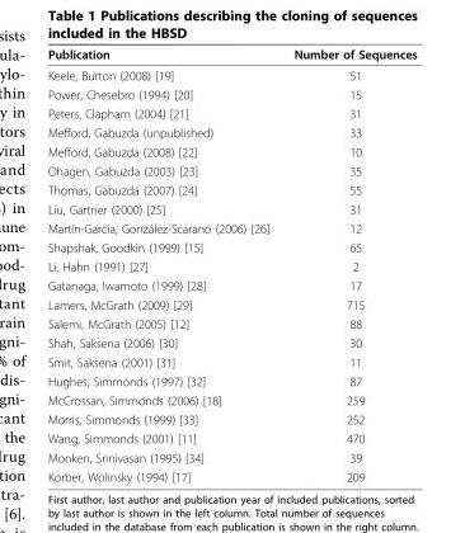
<table><thead><tr><td>Publication</td><td>Number of Sequences</td></tr></thead><tbody><tr><td>Keele, Burton (2008) [19]</td><td>51</td></tr><tr><td>Power, Chesebro (1994) [20]</td><td>15</td></tr><tr><td>Peters, Clapham (2004) [21]</td><td>31</td></tr><tr><td>Mefford, Gabuzda (unpublished)</td><td>33</td></tr><tr><td>Mefford, Gabuzda (2008) [22]</td><td>10</td></tr><tr><td>Ohagen, Gabuzda (2003) [23]</td><td>35</td></tr><tr><td>Thomas, Gabuzda (2007) [24]</td><td>55</td></tr><tr><td>Liu, Gartner (2000) [25]</td><td>31</td></tr><tr><td>Martín-García, González-Scarano (2006) [26]</td><td>12</td></tr><tr><td>Shapshak, Goodkin (1999) [15]</td><td>65</td></tr><tr><td>Li, Hahn (1991) [27]</td><td>2</td></tr><tr><td>Gatanaga, Iwamoto (1999) [28]</td><td>17</td></tr><tr><td>Lamers, McGrath (2009) [29]</td><td>715</td></tr><tr><td>Salemi, McGrath (2005) [12]</td><td>88</td></tr><tr><td>Shah, Saksena (2006) [30]</td><td>30</td></tr><tr><td>Smit, Saksena (2001) [31]</td><td>11</td></tr><tr><td>Hughes, Simmonds (1997) [32]</td><td>87</td></tr><tr><td>McCrossan, Simmonds (2006) [18]</td><td>259</td></tr><tr><td>Morris, Simmonds (1999) [33]</td><td>252</td></tr><tr><td>Wang, Simmonds (2001) [11]</td><td>470</td></tr><tr><td>Monken, Srinivasan (1995) [34]</td><td>39</td></tr><tr><td>Korber, Wolinsky (1994) [17]</td><td>209</td></tr></tbody></table>